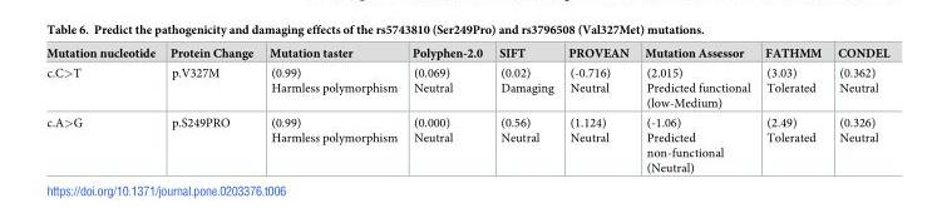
<table><thead><tr><td>Mutation nucleotide</td><td>Protein Change</td><td>Mutation taster</td><td>Polyphen-2.0</td><td>SIFT</td><td>PROVEAN</td><td>Mutation Assessor</td><td>FATHMM</td><td>CONDEL</td></tr></thead><tbody><tr><td>c.C&gt;T</td><td>p.V327M</td><td>(0.99) Harmless polymorphism</td><td>(0.069) Neutral</td><td>(0.02) Damaging</td><td>(-0.716) Neutral</td><td>(2.015) Predicted functional (low-Medium)</td><td>(3.03) Tolerated</td><td>(0.362) Neutral</td></tr><tr><td>c.A&gt;G</td><td>p.S249PRO</td><td>(0.99) Harmless polymorphism</td><td>(0.000) Neutral</td><td>(0.56) Neutral</td><td>(1.124) Neutral</td><td>(-1.06) Predicted non-functional (Neutral)</td><td>(2.49) Tolerated</td><td>(0.326) Neutral</td></tr></tbody></table>